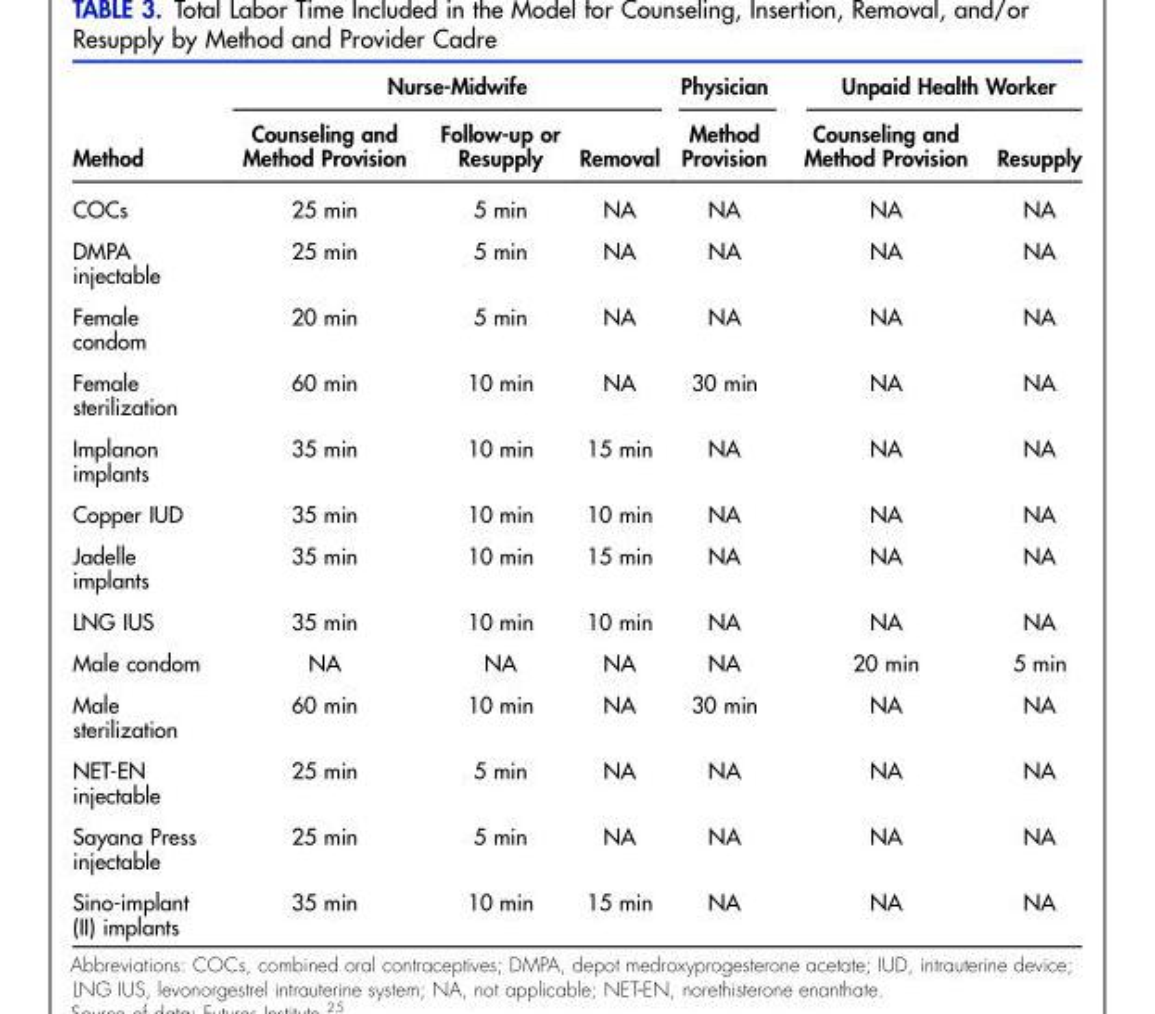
<table><thead><tr><td rowspan="2">Method</td><td colspan="3">Nurse-Midwife</td><td rowspan="2">Physician Method Provision</td><td colspan="2">Unpaid Health Worker</td></tr><tr><td>Counseling and Method Provision</td><td>Follow-up or Resupply</td><td>Removal</td><td>Counseling and Method Provision</td><td>Resupply</td></tr></thead><tbody><tr><td>COCs</td><td>25 min</td><td>5 min</td><td>NA</td><td>NA</td><td>NA</td><td>NA</td></tr><tr><td>DMPA injectable</td><td>25 min</td><td>5 min</td><td>NA</td><td>NA</td><td>NA</td><td>NA</td></tr><tr><td>Female condom</td><td>20 min</td><td>5 min</td><td>NA</td><td>NA</td><td>NA</td><td>NA</td></tr><tr><td>Female sterilization</td><td>60 min</td><td>10 min</td><td>NA</td><td>30 min</td><td>NA</td><td>NA</td></tr><tr><td>Implanon implants</td><td>35 min</td><td>10 min</td><td>15 min</td><td>NA</td><td>NA</td><td>NA</td></tr><tr><td>Copper IUD</td><td>35 min</td><td>10 min</td><td>10 min</td><td>NA</td><td>NA</td><td>NA</td></tr><tr><td>Jadelle implants</td><td>35 min</td><td>10 min</td><td>15 min</td><td>NA</td><td>NA</td><td>NA</td></tr><tr><td>LNG IUS</td><td>35 min</td><td>10 min</td><td>10 min</td><td>NA</td><td>NA</td><td>NA</td></tr><tr><td>Male condom</td><td>NA</td><td>NA</td><td>NA</td><td>NA</td><td>20 min</td><td>5 min</td></tr><tr><td>Male sterilization</td><td>60 min</td><td>10 min</td><td>NA</td><td>30 min</td><td>NA</td><td>NA</td></tr><tr><td>NET-EN injectable</td><td>25 min</td><td>5 min</td><td>NA</td><td>NA</td><td>NA</td><td>NA</td></tr><tr><td>Sayana Press injectable</td><td>25 min</td><td>5 min</td><td>NA</td><td>NA</td><td>NA</td><td>NA</td></tr><tr><td>Sino-implant (II) implants</td><td>35 min</td><td>10 min</td><td>15 min</td><td>NA</td><td>NA</td><td>NA</td></tr></tbody></table>